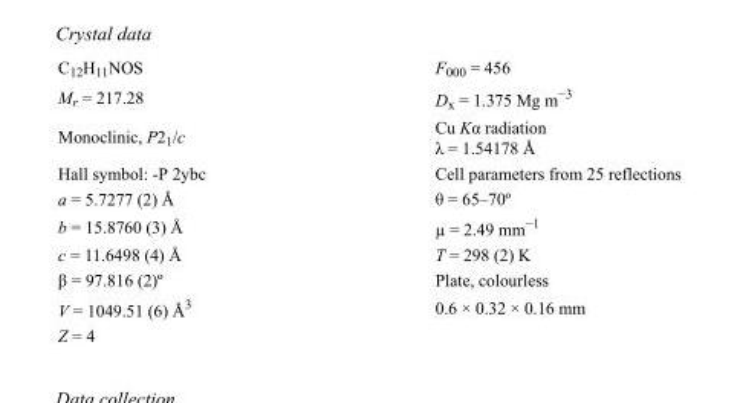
<table><tbody><tr><td>C<sub>12</sub>H<sub>11</sub>NOS</td><td>F<sub>000</sub> = 456</td></tr><tr><td>M<sub>r</sub> = 217.28</td><td>D<sub>x</sub> = 1.375 Mg m<sup>−3</sup></td></tr><tr><td>Monoclinic, P2<sub>1</sub>/c</td><td>Cu Kα radiation λ = 1.54178 Å</td></tr><tr><td>Hall symbol: -P 2ybc</td><td>Cell parameters from 25 reflections</td></tr><tr><td>a = 5.7277 (2) Å</td><td>θ = 65–70º</td></tr><tr><td>b = 15.8760 (3) Å</td><td>µ = 2.49 mm<sup>−1</sup></td></tr><tr><td>c = 11.6498 (4) Å</td><td>T = 298 (2) K</td></tr><tr><td>β = 97.816 (2)º</td><td>Plate, colourless</td></tr><tr><td>V = 1049.51 (6) Å<sup>3</sup></td><td>0.6 × 0.32 × 0.16 mm</td></tr><tr><td>Z = 4</td><td></td></tr></tbody></table>